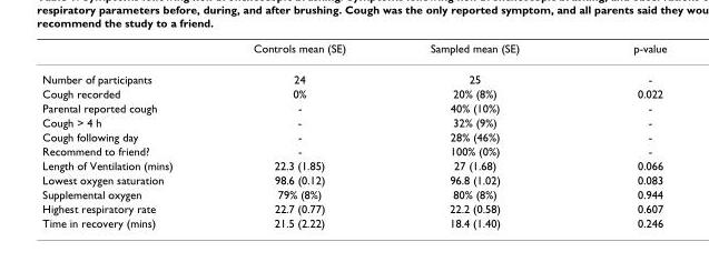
<table><thead><tr><td></td><td>Controls mean (SE)</td><td>Sampled mean (SE)</td><td>p-value</td></tr></thead><tbody><tr><td>Number of participants</td><td>24</td><td>25</td><td>-</td></tr><tr><td>Cough recorded</td><td>0%</td><td>20% (8%)</td><td>0.022</td></tr><tr><td>Parental reported cough</td><td>-</td><td>40% (10%)</td><td>-</td></tr><tr><td>Cough &gt; 4 h</td><td>-</td><td>32% (9%)</td><td>-</td></tr><tr><td>Cough following day</td><td>-</td><td>28% (46%)</td><td>-</td></tr><tr><td>Recommend to friend?</td><td>-</td><td>100% (0%)</td><td>-</td></tr><tr><td>Length of Ventilation (mins)</td><td>22.3 (1.85)</td><td>27 (1.68)</td><td>0.066</td></tr><tr><td>Lowest oxygen saturation</td><td>98.6 (0.12)</td><td>96.8 (1.02)</td><td>0.083</td></tr><tr><td>Supplemental oxygen</td><td>79% (8%)</td><td>80% (8%)</td><td>0.944</td></tr><tr><td>Highest respiratory rate</td><td>22.7 (0.77)</td><td>22.2 (0.58)</td><td>0.607</td></tr><tr><td>Time in recovery (mins)</td><td>21.5 (2.22)</td><td>18.4 (1.40)</td><td>0.246</td></tr></tbody></table>